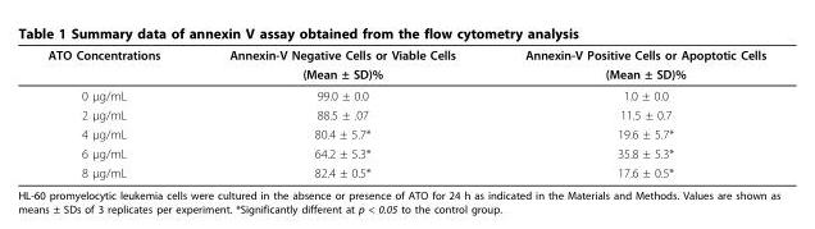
<table><thead><tr><td rowspan="2">ATO Concentrations</td><td rowspan="2">Annexin-V Negative Cells or Viable Cells (Mean ± SD)%</td><td rowspan="2">Annexin-V Positive Cells or Apoptotic Cells (Mean ± SD)%</td></tr><tr></tr></thead><tbody><tr><td>0 μg/mL</td><td>99.0 ± 0.0</td><td>1.0 ± 0.0</td></tr><tr><td>2 μg/mL</td><td>88.5 ± .07</td><td>11.5 ± 0.7</td></tr><tr><td>4 μg/mL</td><td>80.4 ± 5.7*</td><td>19.6 ± 5.7*</td></tr><tr><td>6 μg/mL</td><td>64.2 ± 5.3*</td><td>35.8 ± 5.3*</td></tr><tr><td>8 μg/mL</td><td>82.4 ± 0.5*</td><td>17.6 ± 0.5*</td></tr></tbody></table>